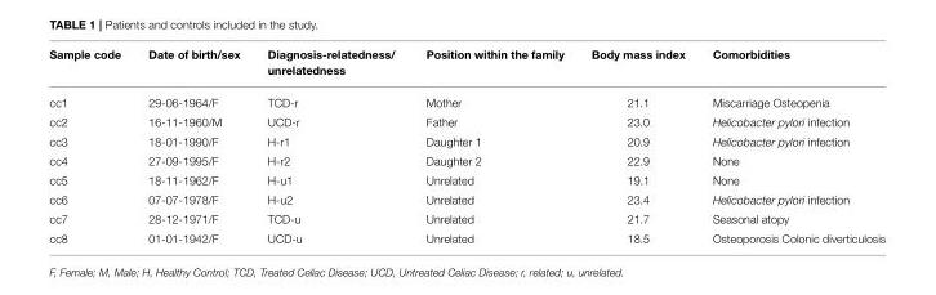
<table><thead><tr><td>Sample code</td><td>Date of birth/sex</td><td>Diagnosis-relatedness/ unrelatedness</td><td>Position within the family</td><td>Body mass index</td><td>Comorbidities</td></tr></thead><tbody><tr><td>cc1</td><td>29-06-1964/F</td><td>TCD-r</td><td>Mother</td><td>21.1</td><td>Miscarriage Osteopenia</td></tr><tr><td>cc2</td><td>16-11-1960/M</td><td>UCD-r</td><td>Father</td><td>23.0</td><td>Helicobacter pylori infection</td></tr><tr><td>cc3</td><td>18-01-1990/F</td><td>H-r1</td><td>Daughter 1</td><td>20.9</td><td>Helicobacter pylori infection</td></tr><tr><td>cc4</td><td>27-09-1995/F</td><td>H-r2</td><td>Daughter 2</td><td>22.9</td><td>None</td></tr><tr><td>cc5</td><td>18-11-1962/F</td><td>H-u1</td><td>Unrelated</td><td>19.1</td><td>None</td></tr><tr><td>cc6</td><td>07-07-1978/F</td><td>H-u2</td><td>Unrelated</td><td>23.4</td><td>Helicobacter pylori infection</td></tr><tr><td>cc7</td><td>28-12-1971/F</td><td>TCD-u</td><td>Unrelated</td><td>21.7</td><td>Seasonal atopy</td></tr><tr><td>cc8</td><td>01-01-1942/F</td><td>UCD-u</td><td>Unrelated</td><td>18.5</td><td>Osteoporosis Colonic diverticulosis</td></tr></tbody></table>